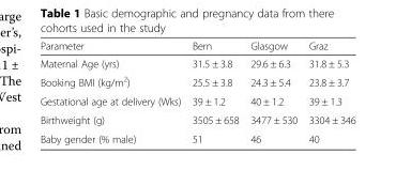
<table><thead><tr><td>Parameter</td><td>Bern</td><td>Glasgow</td><td>Graz</td></tr></thead><tbody><tr><td>Maternal Age (yrs)</td><td>31.5 ± 3.8</td><td>29.6 ± 6.3</td><td>31.8 ± 5.3</td></tr><tr><td>Booking BMI (kg/m<sup>2</sup>)</td><td>25.5 ± 3.8</td><td>24.3 ± 5.4</td><td>23.8 ± 3.7</td></tr><tr><td>Gestational age at delivery (Wks)</td><td>39 ± 1.2</td><td>40 ± 1.2</td><td>39 ± 1.3</td></tr><tr><td>Birthweight (g)</td><td>3505 ± 658</td><td>3477 ± 530</td><td>3304 ± 346</td></tr><tr><td>Baby gender (% male)</td><td>51</td><td>46</td><td>40</td></tr></tbody></table>